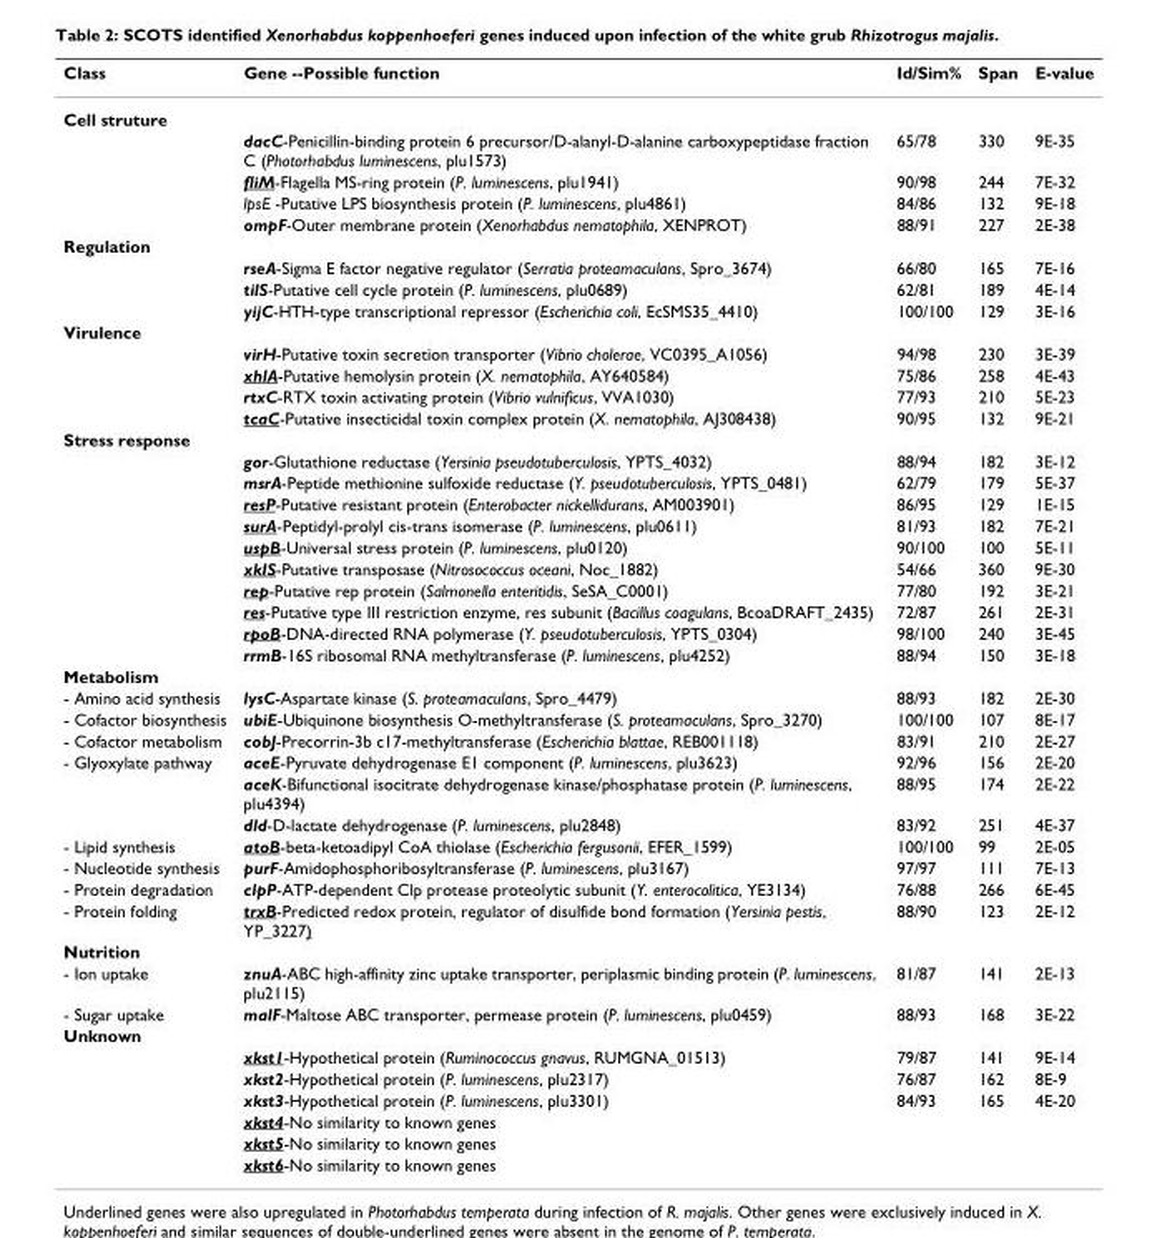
<table><thead><tr><td>Class</td><td>Gene --Possible function</td><td>Id/Sim%</td><td>Span</td><td>E-value</td></tr></thead><tbody><tr><td colspan="5">Cell struture</td></tr><tr><td></td><td>dacC-Penicillin-binding protein 6 precursor/D-alanyl-D-alanine carboxypeptidase fraction C (Photorhabdus luminescens, plu1573)</td><td>65/78</td><td>330</td><td>9E-35</td></tr><tr><td></td><td>fliM-Flagella MS-ring protein (P. luminescens, plu1941)</td><td>90/98</td><td>244</td><td>7E-32</td></tr><tr><td></td><td>lpsE -Putative LPS biosynthesis protein (P. luminescens, plu4861)</td><td>84/86</td><td>132</td><td>9E-18</td></tr><tr><td></td><td>ompF-Outer membrane protein (Xenorhabdus nematophila, XENPROT)</td><td>88/91</td><td>227</td><td>2E-38</td></tr><tr><td colspan="5">Regulation</td></tr><tr><td></td><td>rseA-Sigma E factor negative regulator (Serratia proteamaculans, Spro_3674)</td><td>66/80</td><td>165</td><td>7E-16</td></tr><tr><td></td><td>tilS-Putative cell cycle protein (P. luminescens, plu0689)</td><td>62/81</td><td>189</td><td>4E-14</td></tr><tr><td></td><td>yijC-HTH-type transcriptional repressor (Escherichia coli, EcSMS35_4410)</td><td>100/100</td><td>129</td><td>3E-16</td></tr><tr><td colspan="5">Virulence</td></tr><tr><td></td><td>virH-Putative toxin secretion transporter (Vibrio cholerae, VC0395_A1056)</td><td>94/98</td><td>230</td><td>3E-39</td></tr><tr><td></td><td>xhlA-Putative hemolysin protein (X. nematophila, AY640584)</td><td>75/86</td><td>258</td><td>4E-43</td></tr><tr><td></td><td>rtxC-RTX toxin activating protein (Vibrio vulnificus, VVA1030)</td><td>77/93</td><td>210</td><td>5E-23</td></tr><tr><td></td><td>tcaC-Putative insecticidal toxin complex protein (X. nematophila, AJ308438)</td><td>90/95</td><td>132</td><td>9E-21</td></tr><tr><td colspan="5">Stress response</td></tr><tr><td></td><td>gor-Glutathione reductase (Yersinia pseudotuberculosis, YPTS_4032)</td><td>88/94</td><td>182</td><td>3E-12</td></tr><tr><td></td><td>msrA-Peptide methionine sulfoxide reductase (Y. pseudotuberculosis, YPTS_0481)</td><td>62/79</td><td>179</td><td>5E-37</td></tr><tr><td></td><td>resP-Putative resistant protein (Enterobacter nickellidurans, AM003901)</td><td>86/95</td><td>129</td><td>1E-15</td></tr><tr><td></td><td>surA-Peptidyl-prolyl cis-trans isomerase (P. luminescens, plu0611)</td><td>81/93</td><td>182</td><td>7E-21</td></tr><tr><td></td><td>uspB-Universal stress protein (P. luminescens, plu0120)</td><td>90/100</td><td>100</td><td>5E-11</td></tr><tr><td></td><td>xkIS-Putative transposase (Nitrosococcus oceani, Noc_1882)</td><td>54/66</td><td>360</td><td>9E-30</td></tr><tr><td></td><td>rep-Putative rep protein (Salmonella enteritidis, SeSA_C0001)</td><td>77/80</td><td>192</td><td>3E-21</td></tr><tr><td></td><td>res-Putative type III restriction enzyme, res subunit (Bacillus coagulans, BcoaDRAFT_2435)</td><td>72/87</td><td>261</td><td>2E-31</td></tr><tr><td></td><td>rpoB-DNA-directed RNA polymerase (Y. pseudotuberculosis, YPTS_0304)</td><td>98/100</td><td>240</td><td>3E-45</td></tr><tr><td></td><td>rrmB-16S ribosomal RNA methyltransferase (P. luminescens, plu4252)</td><td>88/94</td><td>150</td><td>3E-18</td></tr><tr><td colspan="5">Metabolism</td></tr><tr><td>- Amino acid synthesis</td><td>lysC-Aspartate kinase (S. proteamaculans, Spro_4479)</td><td>88/93</td><td>182</td><td>2E-30</td></tr><tr><td>- Cofactor biosynthesis</td><td>ubiE-Ubiquinone biosynthesis O-methyltransferase (S. proteamaculans, Spro_3270)</td><td>100/100</td><td>107</td><td>8E-17</td></tr><tr><td>- Cofactor metabolism</td><td>cobJ-Precorrin-3b c17-methyltransferase (Escherichia blattae, REB001118)</td><td>83/91</td><td>210</td><td>2E-27</td></tr><tr><td rowspan="3">- Glyoxylate pathway</td><td>aceE-Pyruvate dehydrogenase E1 component (P. luminescens, plu3623)</td><td>92/96</td><td>156</td><td>2E-20</td></tr><tr><td>aceK-Bifunctional isocitrate dehydrogenase kinase/phosphatase protein (P. luminescens, plu4394)</td><td>88/95</td><td>174</td><td>2E-22</td></tr><tr><td>dld-D-lactate dehydrogenase (P. luminescens, plu2848)</td><td>83/92</td><td>251</td><td>4E-37</td></tr><tr><td>- Lipid synthesis</td><td>atoB-beta-ketoadipyl CoA thiolase (Escherichia fergusonii, EFER_1599)</td><td>100/100</td><td>99</td><td>2E-05</td></tr><tr><td>- Nucleotide synthesis</td><td>purF-Amidophosphoribosyltransferase (P. luminescens, plu3167)</td><td>97/97</td><td>111</td><td>7E-13</td></tr><tr><td>- Protein degradation</td><td>clpP-ATP-dependent Clp protease proteolytic subunit (Y. enterocolitica, YE3134)</td><td>76/88</td><td>266</td><td>6E-45</td></tr><tr><td>- Protein folding</td><td>trxB-Predicted redox protein, regulator of disulfide bond formation (Yersinia pestis, YP_3227)</td><td>88/90</td><td>123</td><td>2E-12</td></tr><tr><td colspan="5">Nutrition</td></tr><tr><td>- Ion uptake</td><td>znuA-ABC high-affinity zinc uptake transporter, periplasmic binding protein (P. luminescens, plu2115)</td><td>81/87</td><td>141</td><td>2E-13</td></tr><tr><td>- Sugar uptake</td><td>malF-Maltose ABC transporter, permease protein (P. luminescens, plu0459)</td><td>88/93</td><td>168</td><td>3E-22</td></tr><tr><td colspan="5">Unknown</td></tr><tr><td></td><td>xkst1-Hypothetical protein (Ruminococcus gnavus, RUMGNA_01513)</td><td>79/87</td><td>141</td><td>9E-14</td></tr><tr><td></td><td>xkst2-Hypothetical protein (P. luminescens, plu2317)</td><td>76/87</td><td>162</td><td>8E-9</td></tr><tr><td></td><td>xkst3-Hypothetical protein (P. luminescens, plu3301)</td><td>84/93</td><td>165</td><td>4E-20</td></tr><tr><td></td><td>xkst4-No similarity to known genes</td><td></td><td></td><td></td></tr><tr><td></td><td>xkst5-No similarity to known genes</td><td></td><td></td><td></td></tr><tr><td></td><td>xkst6-No similarity to known genes</td><td></td><td></td><td></td></tr></tbody></table>